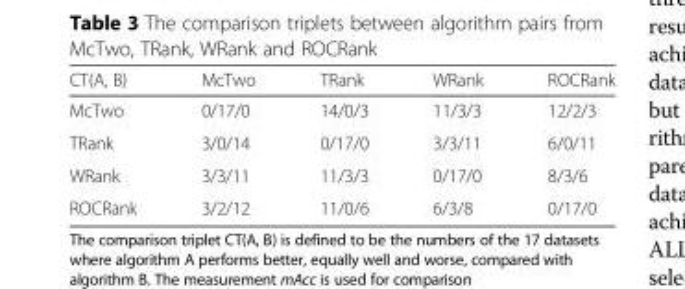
<table><thead><tr><td>CT(A, B)</td><td>McTwo</td><td>TRank</td><td>WRank</td><td>ROCRank</td></tr></thead><tbody><tr><td>McTwo</td><td>0/17/0</td><td>14/0/3</td><td>11/3/3</td><td>12/2/3</td></tr><tr><td>TRank</td><td>3/0/14</td><td>0/17/0</td><td>3/3/11</td><td>6/0/11</td></tr><tr><td>WRank</td><td>3/3/11</td><td>11/3/3</td><td>0/17/0</td><td>8/3/6</td></tr><tr><td>ROCRank</td><td>3/2/12</td><td>11/0/6</td><td>6/3/8</td><td>0/17/0</td></tr></tbody></table>